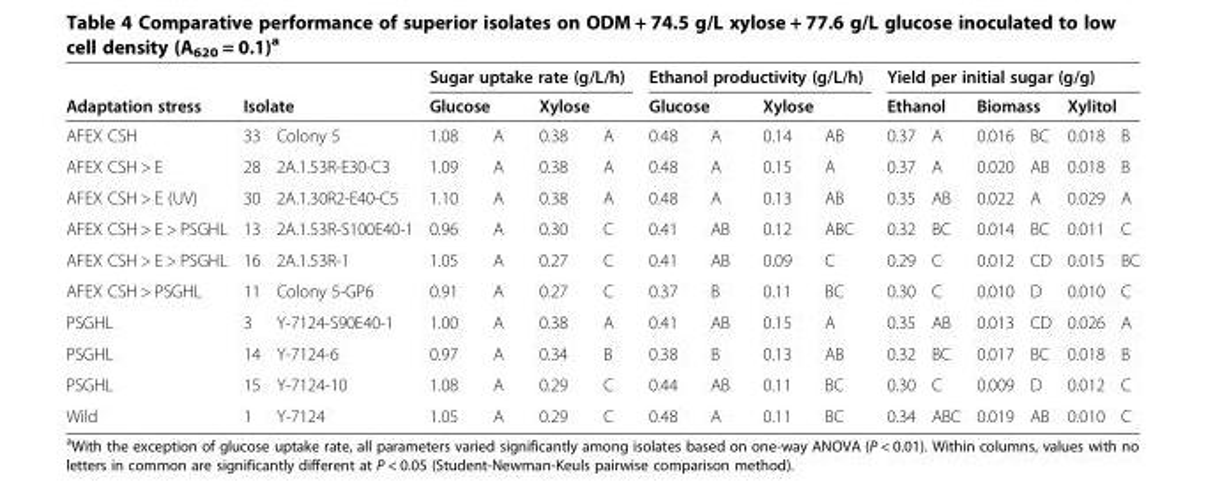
<table><thead><tr><td rowspan="3">Adaptation stress AFEX CSH</td><td></td><td></td><td colspan="4">Sugar uptake rate (g/L/h)</td><td colspan="4">Ethanol productivity (g/L/h)</td><td colspan="6">Yield per initial sugar (g/g)</td></tr><tr><td colspan="2">Isolate</td><td colspan="2">Glucose</td><td colspan="2">Xylose</td><td colspan="2">Glucose</td><td colspan="2">Xylose</td><td colspan="2">Ethanol</td><td colspan="2">Biomass</td><td colspan="2">Xylitol</td></tr><tr><td>33</td><td>Colony 5</td><td>1.08</td><td>A</td><td>0.38</td><td>A</td><td>0.48</td><td>A</td><td>0.14</td><td>AB</td><td>0.37</td><td>A</td><td>0.016</td><td>BC</td><td>0.018</td><td>B</td></tr></thead><tbody><tr><td>AFEX CSH &gt; E</td><td>28</td><td>2A.1.53R-E30-C3</td><td>1.09</td><td>A</td><td>0.38</td><td>A</td><td>0.48</td><td>A</td><td>0.15</td><td>A</td><td>0.37</td><td>A</td><td>0.020</td><td>AB</td><td>0.018</td><td>B</td></tr><tr><td>AFEX CSH &gt; E (UV)</td><td>30</td><td>2A.1.30R2-E40-C5</td><td>1.10</td><td>A</td><td>0.38</td><td>A</td><td>0.48</td><td>A</td><td>0.13</td><td>AB</td><td>0.35</td><td>AB</td><td>0.022</td><td>A</td><td>0.029</td><td>A</td></tr><tr><td>AFEX CSH &gt; E &gt; PSGHL</td><td>13</td><td>2A.1.53R-S100E40-1</td><td>0.96</td><td>A</td><td>0.30</td><td>C</td><td>0.41</td><td>AB</td><td>0.12</td><td>ABC</td><td>0.32</td><td>BC</td><td>0.014</td><td>BC</td><td>0.011</td><td>C</td></tr><tr><td>AFEX CSH &gt; E &gt; PSGHL</td><td>16</td><td>2A.1.53R-1</td><td>1.05</td><td>A</td><td>0.27</td><td>C</td><td>0.41</td><td>AB</td><td>0.09</td><td>C</td><td>0.29</td><td>C</td><td>0.012</td><td>CD</td><td>0.015</td><td>BC</td></tr><tr><td>AFEX CSH &gt; PSGHL</td><td>11</td><td>Colony 5-GP6</td><td>0.91</td><td>A</td><td>0.27</td><td>C</td><td>0.37</td><td>B</td><td>0.11</td><td>BC</td><td>0.30</td><td>C</td><td>0.010</td><td>D</td><td>0.010</td><td>C</td></tr><tr><td>PSGHL</td><td>3</td><td>Y-7124-S90E40-1</td><td>1.00</td><td>A</td><td>0.38</td><td>A</td><td>0.41</td><td>AB</td><td>0.15</td><td>A</td><td>0.35</td><td>AB</td><td>0.013</td><td>CD</td><td>0.026</td><td>A</td></tr><tr><td>PSGHL</td><td>14</td><td>Y-7124-6</td><td>0.97</td><td>A</td><td>0.34</td><td>B</td><td>0.38</td><td>B</td><td>0.13</td><td>AB</td><td>0.32</td><td>BC</td><td>0.017</td><td>BC</td><td>0.018</td><td>B</td></tr><tr><td>PSGHL</td><td>15</td><td>Y-7124-10</td><td>1.08</td><td>A</td><td>0.29</td><td>C</td><td>0.44</td><td>AB</td><td>0.11</td><td>BC</td><td>0.30</td><td>C</td><td>0.009</td><td>D</td><td>0.012</td><td>C</td></tr><tr><td>Wild</td><td>1</td><td>Y-7124</td><td>1.05</td><td>A</td><td>0.29</td><td>C</td><td>0.48</td><td>A</td><td>0.11</td><td>BC</td><td>0.34</td><td>ABC</td><td>0.019</td><td>AB</td><td>0.010</td><td>C</td></tr></tbody></table>